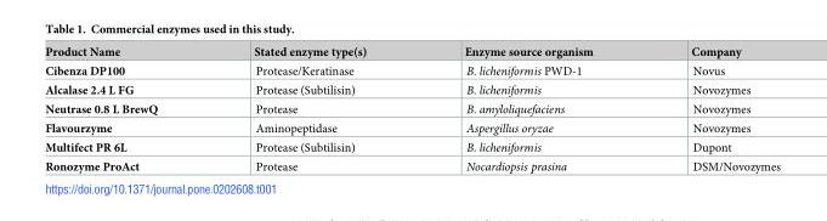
<table><thead><tr><td>Product Name</td><td>Stated enzyme type(s)</td><td>Enzyme source organism</td><td>Company</td></tr></thead><tbody><tr><td>Cibenza DP100</td><td>Protease/Keratinase</td><td>B. licheniformis PWD-1</td><td>Novus</td></tr><tr><td>Alcalase 2.4 L FG</td><td>Protease (Subtilisin)</td><td>B. licheniformis</td><td>Novozymes</td></tr><tr><td>Neutrase 0.8 L BrewQ</td><td>Protease</td><td>B. amyloliquefaciens</td><td>Novozymes</td></tr><tr><td>Flavourzyme</td><td>Aminopeptidase</td><td>Aspergillus oryzae</td><td>Novozymes</td></tr><tr><td>Multifect PR 6L</td><td>Protease (Subtilisin)</td><td>B. licheniformis</td><td>Dupont</td></tr><tr><td>Ronozyme ProAct</td><td>Protease</td><td>Nocardiopsis prasina</td><td>DSM/Novozymes</td></tr></tbody></table>